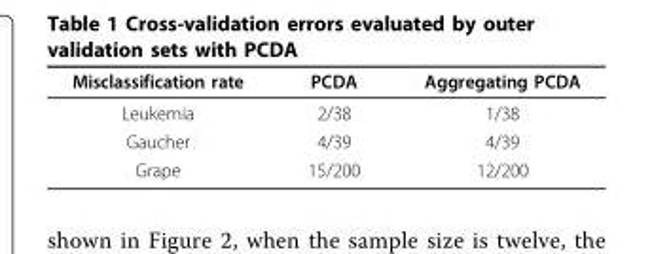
<table><thead><tr><td>Misclassification rate</td><td>PCDA</td><td>Aggregating PCDA</td></tr></thead><tbody><tr><td>Leukemia</td><td>2/38</td><td>1/38</td></tr><tr><td>Gaucher</td><td>4/39</td><td>4/39</td></tr><tr><td>Grape</td><td>15/200</td><td>12/200</td></tr></tbody></table>